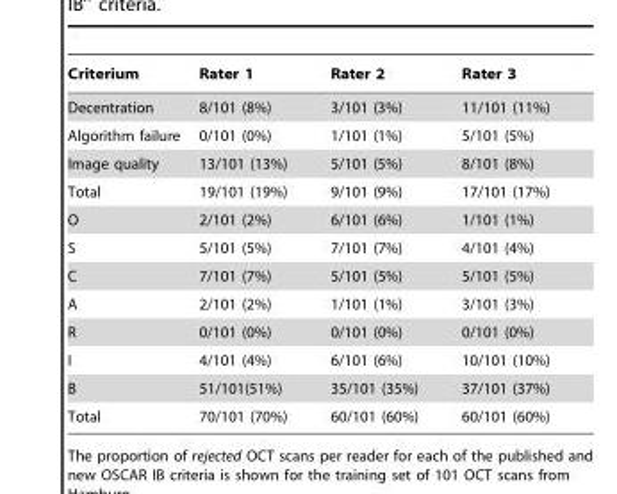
<table><thead><tr><td>Criterium</td><td>Rater 1</td><td>Rater 2</td><td>Rater 3</td></tr></thead><tbody><tr><td>Decentration</td><td>8/101 (8%)</td><td>3/101 (3%)</td><td>11/101 (11%)</td></tr><tr><td>Algorithm failure</td><td>0/101 (0%)</td><td>1/101 (1%)</td><td>5/101 (5%)</td></tr><tr><td>Image quality</td><td>13/101 (13%)</td><td>5/101 (5%)</td><td>8/101 (8%)</td></tr><tr><td>Total</td><td>19/101 (19%)</td><td>9/101 (9%)</td><td>17/101 (17%)</td></tr><tr><td>O</td><td>2/101 (2%)</td><td>6/101 (6%)</td><td>1/101 (1%)</td></tr><tr><td>S</td><td>5/101 (5%)</td><td>7/101 (7%)</td><td>4/101 (4%)</td></tr><tr><td>C</td><td>7/101 (7%)</td><td>5/101 (5%)</td><td>5/101 (5%)</td></tr><tr><td>A</td><td>2/101 (2%)</td><td>1/101 (1%)</td><td>3/101 (3%)</td></tr><tr><td>R</td><td>0/101 (0%)</td><td>0/101 (0%)</td><td>0/101 (0%)</td></tr><tr><td>I</td><td>4/101 (4%)</td><td>6/101 (6%)</td><td>10/101 (10%)</td></tr><tr><td>B</td><td>51/101(51%)</td><td>35/101 (35%)</td><td>37/101 (37%)</td></tr><tr><td>Total</td><td>70/101 (70%)</td><td>60/101 (60%)</td><td>60/101 (60%)</td></tr></tbody></table>